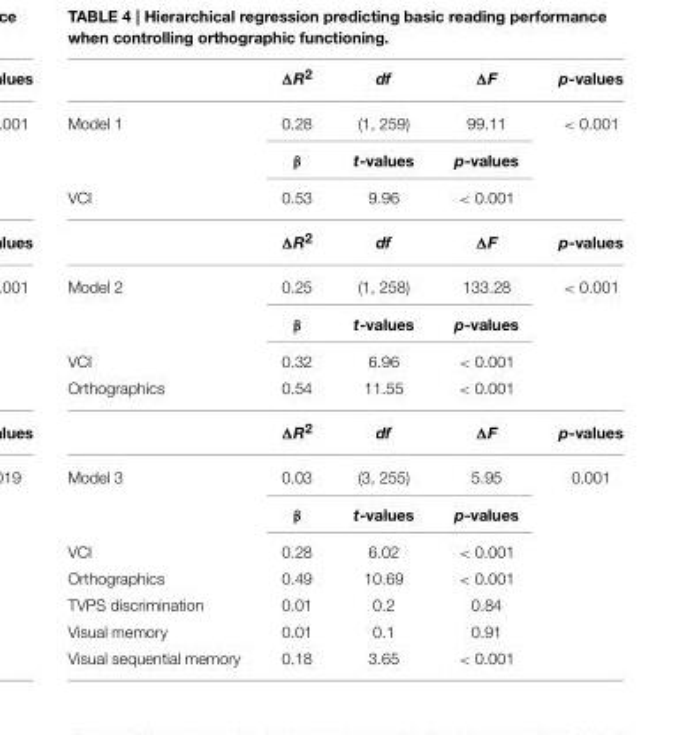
<table><thead><tr><td></td><td>ΔR<sup>2</sup></td><td>df</td><td>ΔF</td><td>p-values</td></tr></thead><tbody><tr><td rowspan="2">Model 1</td><td>0.28</td><td>(1, 259)</td><td>99.11</td><td>&lt; 0.001</td></tr><tr><td>β</td><td>t-values</td><td>p-values</td><td></td></tr><tr><td rowspan="2">VCI</td><td>0.53</td><td>9.96</td><td>&lt; 0.001</td><td></td></tr><tr><td>ΔR<sup>2</sup></td><td>df</td><td>ΔF</td><td>p-values</td></tr><tr><td rowspan="2">Model 2</td><td>0.25</td><td>(1, 258)</td><td>133.28</td><td>&lt; 0.001</td></tr><tr><td>β</td><td>t-values</td><td>p-values</td><td></td></tr><tr><td>VCI</td><td>0.32</td><td>6.96</td><td>&lt; 0.001</td><td></td></tr><tr><td rowspan="2">Orthographics</td><td>0.54</td><td>11.55</td><td>&lt; 0.001</td><td></td></tr><tr><td>ΔR<sup>2</sup></td><td>df</td><td>ΔF</td><td>p-values</td></tr><tr><td rowspan="2">Model 3</td><td>0.03</td><td>(3, 255)</td><td>5.95</td><td>0.001</td></tr><tr><td>β</td><td>t-values</td><td>p-values</td><td></td></tr><tr><td>VCI</td><td>0.28</td><td>6.02</td><td>&lt; 0.001</td><td></td></tr><tr><td>Orthographics</td><td>0.49</td><td>10.69</td><td>&lt; 0.001</td><td></td></tr><tr><td>TVPS discrimination</td><td>0.01</td><td>0.2</td><td>0.84</td><td></td></tr><tr><td>Visual memory</td><td>0.01</td><td>0.1</td><td>0.91</td><td></td></tr><tr><td>Visual sequential memory</td><td>0.18</td><td>3.65</td><td>&lt; 0.001</td><td></td></tr></tbody></table>